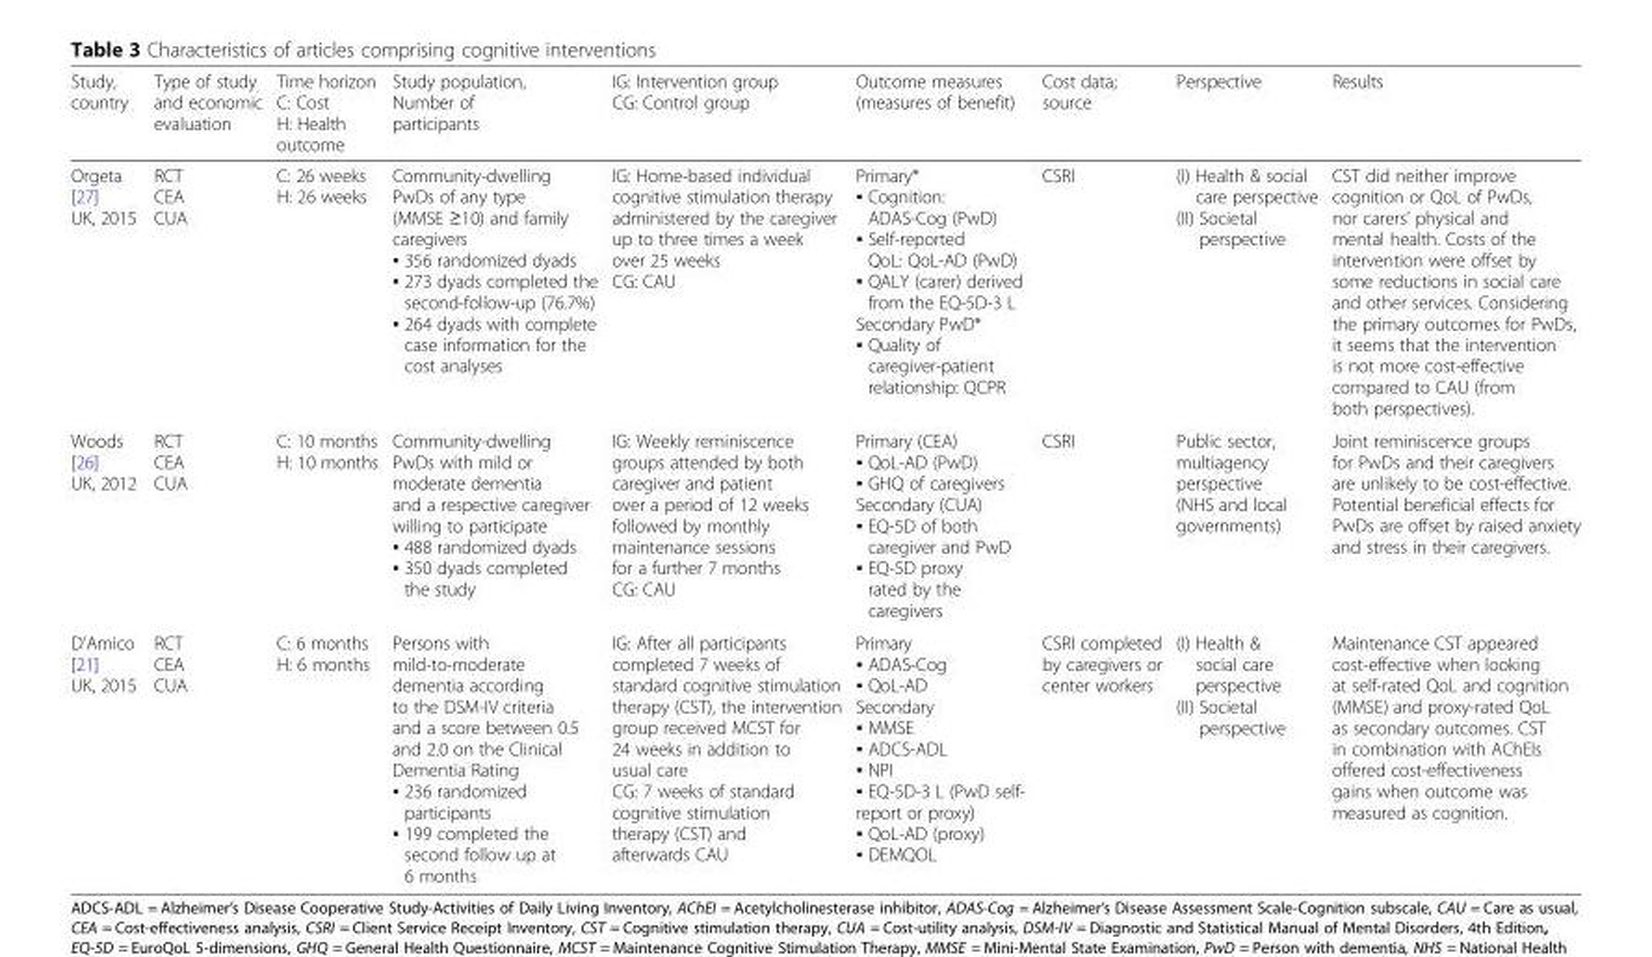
<table><thead><tr><td>Study, country</td><td>Type of study and economic evaluation</td><td>Time horizon C: Cost H: Health outcome</td><td>Study population, Number of participants</td><td>IG: Intervention group CG: Control group</td><td>Outcome measures (measures of benefit)</td><td>Cost data; source</td><td>Perspective</td><td>Results</td></tr></thead><tbody><tr><td>Orgeta [27] UK, 2015</td><td>RCT CEA CUA</td><td>C: 26 weeks H: 26 weeks</td><td>Community-dwelling PwDs of any type (MMSE ≥10) and family caregivers ▪ 356 randomized dyads ▪ 273 dyads completed the second-follow-up (76.7%) ▪ 264 dyads with complete case information for the cost analyses</td><td>IG: Home-based individual cognitive stimulation therapy administered by the caregiver up to three times a week over 25 weeks CG: CAU</td><td>Primary* ▪ Cognition: ADAS-Cog (PwD) ▪ Self-reported QoL: QoL-AD (PwD) ▪ QALY (carer) derived from the EQ-5D-3 L Secondary PwD* ▪ Quality of caregiver-patient relationship: QCPR</td><td>CSRI</td><td>(I) Health &amp; social care perspective (II) Societal perspective</td><td>CST did neither improve cognition or QoL of PwDs, nor carers’ physical and mental health. Costs of the intervention were offset by some reductions in social care and other services. Considering the primary outcomes for PwDs, it seems that the intervention is not more cost-effective compared to CAU (from both perspectives).</td></tr><tr><td>Woods [26] UK, 2012</td><td>RCT CEA CUA</td><td>C: 10 months H: 10 months</td><td>Community-dwelling PwDs with mild or moderate dementia and a respective caregiver willing to participate ▪ 488 randomized dyads ▪ 350 dyads completed the study</td><td>IG: Weekly reminiscence groups attended by both caregiver and patient over a period of 12 weeks followed by monthly maintenance sessions for a further 7 months CG: CAU</td><td>Primary (CEA) ▪ QoL-AD (PwD) ▪ GHQ of caregivers Secondary (CUA) ▪ EQ-5D of both caregiver and PwD ▪ EQ-5D proxy rated by the caregivers</td><td>CSRI</td><td>Public sector, multiagency perspective (NHS and local governments)</td><td>Joint reminiscence groups for PwDs and their caregivers are unlikely to be cost-effective. Potential beneficial effects for PwDs are offset by raised anxiety and stress in their caregivers.</td></tr><tr><td>D’Amico [21] UK, 2015</td><td>RCT CEA CUA</td><td>C: 6 months H: 6 months</td><td>Persons with mild-to-moderate dementia according to the DSM-IV criteria and a score between 0.5 and 2.0 on the Clinical Dementia Rating ▪ 236 randomized participants ▪ 199 completed the second follow up at 6 months</td><td>IG: After all participants completed 7 weeks of standard cognitive stimulation therapy (CST), the intervention group received MCST for 24 weeks in addition to usual care CG: 7 weeks of standard cognitive stimulation therapy (CST) and afterwards CAU</td><td>Primary ▪ ADAS-Cog ▪ QoL-AD Secondary ▪ MMSE ▪ ADCS-ADL ▪ NPI ▪ EQ-5D-3 L (PwD self- report or proxy) ▪ QoL-AD (proxy) ▪ DEMQOL</td><td>CSRI completed by caregivers or center workers</td><td>(I) Health &amp; social care perspective (II) Societal perspective</td><td>Maintenance CST appeared cost-effective when looking at self-rated QoL and cognition (MMSE) and proxy-rated QoL as secondary outcomes. CST in combination with AChEIs offered cost-effectiveness gains when outcome was measured as cognition.</td></tr></tbody></table>